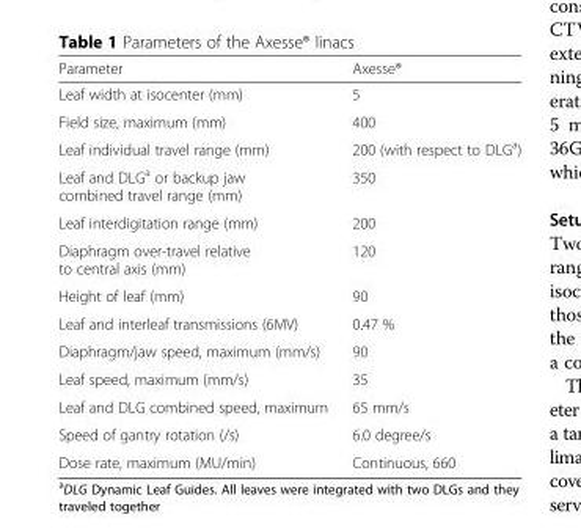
<table><thead><tr><td>Parameter</td><td>Axesse®</td></tr></thead><tbody><tr><td>Leaf width at isocenter (mm)</td><td>5</td></tr><tr><td>Field size, maximum (mm)</td><td>400</td></tr><tr><td>Leaf individual travel range (mm)</td><td>200 (with respect to DLG<sup>a</sup>)</td></tr><tr><td>Leaf and DLG<sup>a</sup> or backup jaw combined travel range (mm)</td><td>350</td></tr><tr><td>Leaf interdigitation range (mm)</td><td>200</td></tr><tr><td>Diaphragm over-travel relative to central axis (mm)</td><td>120</td></tr><tr><td>Height of leaf (mm)</td><td>90</td></tr><tr><td>Leaf and interleaf transmissions (6MV)</td><td>0.47 %</td></tr><tr><td>Diaphragm/jaw speed, maximum (mm/s)</td><td>90</td></tr><tr><td>Leaf speed, maximum (mm/s)</td><td>35</td></tr><tr><td>Leaf and DLG combined speed, maximum</td><td>65 mm/s</td></tr><tr><td>Speed of gantry rotation (/s)</td><td>6.0 degree/s</td></tr><tr><td>Dose rate, maximum (MU/min)</td><td>Continuous, 660</td></tr></tbody></table>